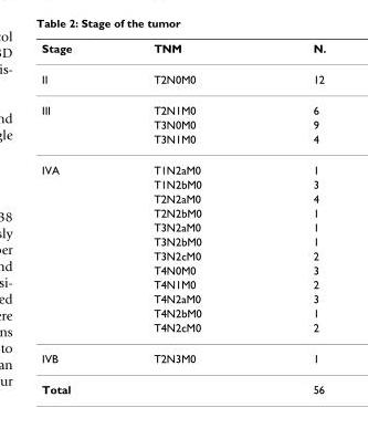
<table><thead><tr><td>Stage</td><td>TNM</td><td>N.</td></tr></thead><tbody><tr><td>II</td><td>T2N0M0</td><td>12</td></tr><tr><td rowspan="3">III</td><td>T2N1M0</td><td>6</td></tr><tr><td>T3N0M0</td><td>9</td></tr><tr><td>T3N1M0</td><td>4</td></tr><tr><td rowspan="12">IVA</td><td>T1N2aM0</td><td>1</td></tr><tr><td>T1N2bM0</td><td>3</td></tr><tr><td>T2N2aM0</td><td>4</td></tr><tr><td>T2N2bM0</td><td>1</td></tr><tr><td>T3N2aM0</td><td>1</td></tr><tr><td>T3N2bM0</td><td>1</td></tr><tr><td>T3N2cM0</td><td>2</td></tr><tr><td>T4N0M0</td><td>3</td></tr><tr><td>T4N1M0</td><td>2</td></tr><tr><td>T4N2aM0</td><td>3</td></tr><tr><td>T4N2bM0</td><td>1</td></tr><tr><td>T4N2cM0</td><td>2</td></tr><tr><td>IVB</td><td>T2N3M0</td><td>1</td></tr><tr><td>Total</td><td></td><td>56</td></tr></tbody></table>